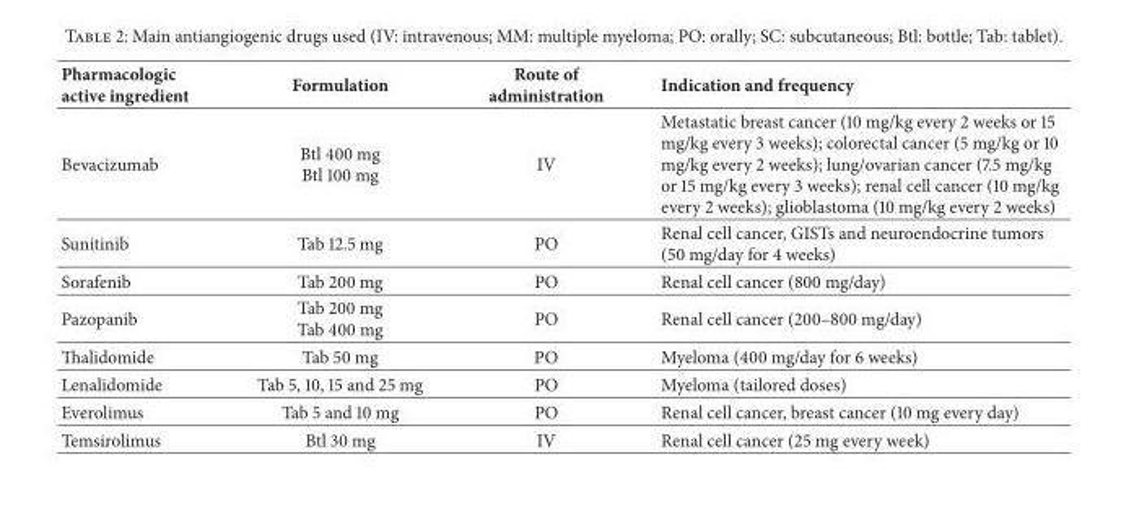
<table><thead><tr><td>Pharmacologic active ingredient</td><td>Formulation</td><td>Route of administration</td><td>Indication and frequency</td></tr></thead><tbody><tr><td>Bevacizumab</td><td>Btl 400 mg Btl 100 mg</td><td>IV</td><td>Metastatic breast cancer (10 mg/kg every 2 weeks or 15 mg/kg every 3 weeks); colorectal cancer (5 mg/kg or 10 mg/kg every 2 weeks); lung/ovarian cancer (7.5 mg/kg or 15 mg/kg every 3 weeks); renal cell cancer (10 mg/kg every 2 weeks); glioblastoma (10 mg/kg every 2 weeks)</td></tr><tr><td>Sunitinib</td><td>Tab 12.5 mg</td><td>PO</td><td>Renal cell cancer, GISTs and neuroendocrine tumors (50 mg/day for 4 weeks)</td></tr><tr><td>Sorafenib</td><td>Tab 200 mg</td><td>PO</td><td>Renal cell cancer (800 mg/day)</td></tr><tr><td>Pazopanib</td><td>Tab 200 mg Tab 400 mg</td><td>PO</td><td>Renal cell cancer (200–800 mg/day)</td></tr><tr><td>Thalidomide</td><td>Tab 50 mg</td><td>PO</td><td>Myeloma (400 mg/day for 6 weeks)</td></tr><tr><td>Lenalidomide</td><td>Tab 5, 10, 15 and 25 mg</td><td>PO</td><td>Myeloma (tailored doses)</td></tr><tr><td>Everolimus</td><td>Tab 5 and 10 mg</td><td>PO</td><td>Renal cell cancer, breast cancer (10 mg every day)</td></tr><tr><td>Temsirolimus</td><td>Btl 30 mg</td><td>IV</td><td>Renal cell cancer (25 mg every week)</td></tr></tbody></table>